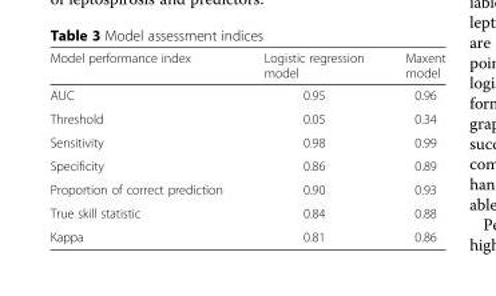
<table><thead><tr><td>Model performance index</td><td>Logistic regression model</td><td>Maxent model</td></tr></thead><tbody><tr><td>AUC</td><td>0.95</td><td>0.96</td></tr><tr><td>Threshold</td><td>0.05</td><td>0.34</td></tr><tr><td>Sensitivity</td><td>0.98</td><td>0.99</td></tr><tr><td>Specificity</td><td>0.86</td><td>0.89</td></tr><tr><td>Proportion of correct prediction</td><td>0.90</td><td>0.93</td></tr><tr><td>True skill statistic</td><td>0.84</td><td>0.88</td></tr><tr><td>Kappa</td><td>0.81</td><td>0.86</td></tr></tbody></table>